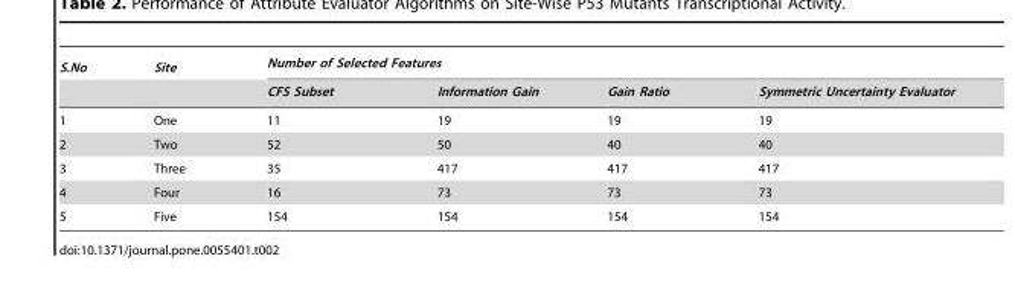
<table><thead><tr><td rowspan="2">S.No</td><td rowspan="2">Site</td><td colspan="4">Number of Selected Features</td></tr><tr><td>CFS Subset</td><td>Information Gain</td><td>Gain Ratio</td><td>Symmetric Uncertainty Evaluator</td></tr></thead><tbody><tr><td>1</td><td>One</td><td>11</td><td>19</td><td>19</td><td>19</td></tr><tr><td>2</td><td>Two</td><td>52</td><td>50</td><td>40</td><td>40</td></tr><tr><td>3</td><td>Three</td><td>35</td><td>417</td><td>417</td><td>417</td></tr><tr><td>4</td><td>Four</td><td>16</td><td>73</td><td>73</td><td>73</td></tr><tr><td>5</td><td>Five</td><td>154</td><td>154</td><td>154</td><td>154</td></tr></tbody></table>